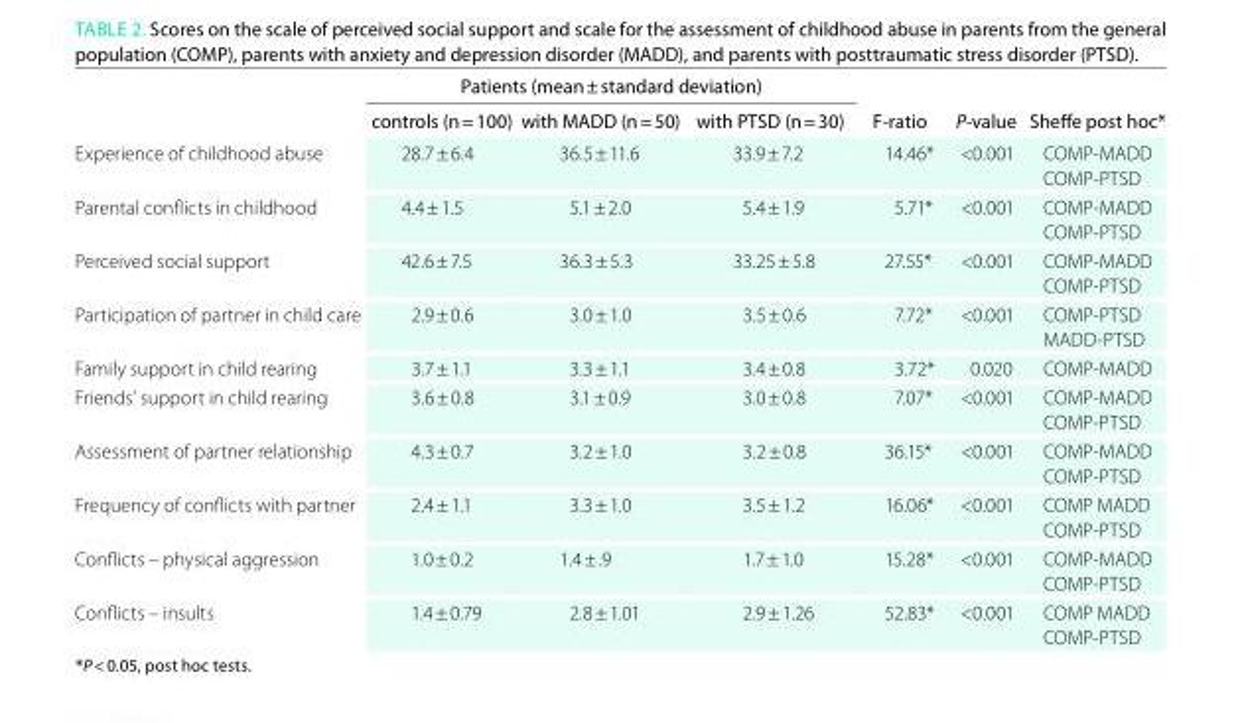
<table><thead><tr><td rowspan="2"></td><td colspan="3">Patients (mean ± standard deviation)</td><td rowspan="2">F-ratio</td><td rowspan="2">P-value</td><td rowspan="2">sheffe post hoc*</td></tr><tr><td>controls (n = 100)</td><td>with MAdd (n = 50)</td><td>with Ptsd (n = 30)</td></tr></thead><tbody><tr><td>Experience of childhood abuse</td><td>28.7 ± 6.4</td><td>36.5 ± 11.6</td><td>33.9 ± 7.2</td><td>14.46*</td><td>&lt;0.001</td><td>COMP-MADD COMP-PTSD</td></tr><tr><td>Parental conflicts in childhood</td><td>4.4 ± 1.5</td><td>5.1 ± 2.0</td><td>5.4 ± 1.9</td><td>5.71*</td><td>&lt;0.001</td><td>COMP-MADD COMP-PTSD</td></tr><tr><td>Perceived social support</td><td>42.6 ± 7.5</td><td>36.3 ± 5.3</td><td>33.25 ± 5.8</td><td>27.55*</td><td>&lt;0.001</td><td>COMP-MADD COMP-PTSD</td></tr><tr><td>Participation of partner in child care</td><td>2.9 ± 0.6</td><td>3.0 ± 1.0</td><td>3.5 ± 0.6</td><td>7.72*</td><td>&lt;0.001</td><td>COMP-PTSD MADD-PTSD</td></tr><tr><td>Family support in child rearing</td><td>3.7 ± 1.1</td><td>3.3 ± 1.1</td><td>3.4 ± 0.8</td><td>3.72*</td><td>0.020</td><td>COMP-MADD</td></tr><tr><td>Friends’ support in child rearing</td><td>3.6 ± 0.8</td><td>3.1 ± 0.9</td><td>3.0 ± 0.8</td><td>7.07*</td><td>&lt;0.001</td><td>COMP-MADD COMP-PTSD</td></tr><tr><td>Assessment of partner relationship</td><td>4.3 ± 0.7</td><td>3.2 ± 1.0</td><td>3.2 ± 0.8</td><td>36.15*</td><td>&lt;0.001</td><td>COMP-MADD COMP-PTSD</td></tr><tr><td>Frequency of conflicts with partner</td><td>2.4 ± 1.1</td><td>3.3 ± 1.0</td><td>3.5 ± 1.2</td><td>16.06*</td><td>&lt;0.001</td><td>COMP MADD COMP-PTSD</td></tr><tr><td>Conflicts – physical aggression</td><td>1.0 ± 0.2</td><td>1.4 ± .9</td><td>1.7 ± 1.0</td><td>15.28*</td><td>&lt;0.001</td><td>COMP-MADD COMP-PTSD</td></tr><tr><td>Conflicts – insults</td><td>1.4 ± 0.79</td><td>2.8 ± 1.01</td><td>2.9 ± 1.26</td><td>52.83*</td><td>&lt;0.001</td><td>COMP MADD COMP-PTSD</td></tr></tbody></table>